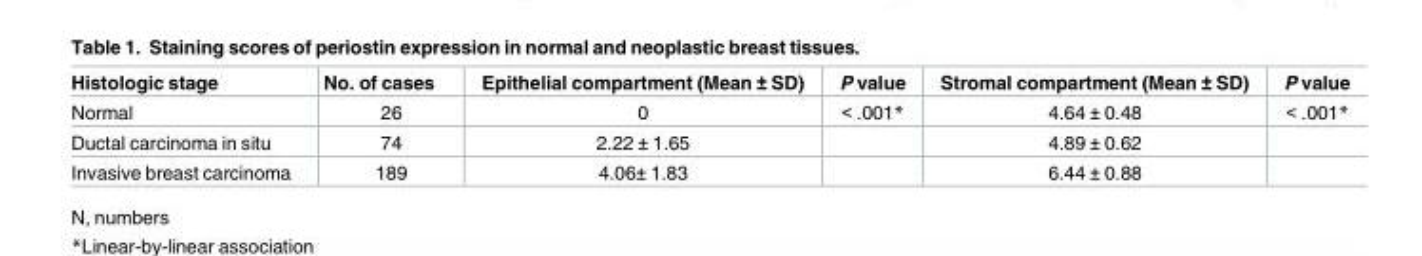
<table><thead><tr><td>Histologic stage</td><td>No. of cases</td><td>Epithelial compartment (Mean ± SD)</td><td>P value</td><td>Stromal compartment (Mean ± SD)</td><td>P value</td></tr></thead><tbody><tr><td>Normal</td><td>26</td><td>0</td><td>&lt; .001*</td><td>4.64 ± 0.48</td><td>&lt; .001*</td></tr><tr><td>Ductal carcinoma in situ</td><td>74</td><td>2.22 ± 1.65</td><td></td><td>4.89 ± 0.62</td><td></td></tr><tr><td>Invasive breast carcinoma</td><td>189</td><td>4.06± 1.83</td><td></td><td>6.44 ± 0.88</td><td></td></tr></tbody></table>